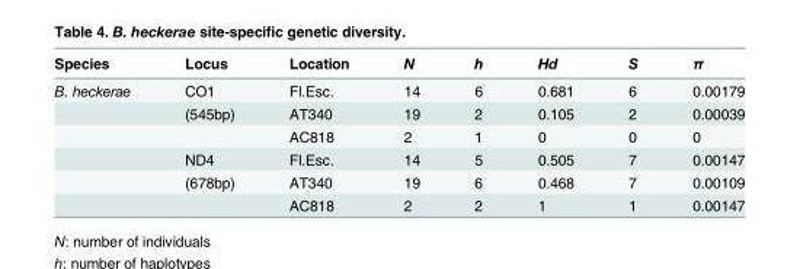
<table><thead><tr><td>Species</td><td>Locus</td><td>Location</td><td>N</td><td>h</td><td>Hd</td><td>S</td><td>π</td></tr></thead><tbody><tr><td rowspan="6">B. heckerae</td><td>CO1</td><td>Fl.Esc.</td><td>14</td><td>6</td><td>0.681</td><td>6</td><td>0.00179</td></tr><tr><td>(545bp)</td><td>AT340</td><td>19</td><td>2</td><td>0.105</td><td>2</td><td>0.00039</td></tr><tr><td></td><td>AC818</td><td>2</td><td>1</td><td>0</td><td>0</td><td>0</td></tr><tr><td>ND4</td><td>Fl.Esc.</td><td>14</td><td>5</td><td>0.505</td><td>7</td><td>0.00147</td></tr><tr><td>(678bp)</td><td>AT340</td><td>19</td><td>6</td><td>0.468</td><td>7</td><td>0.00109</td></tr><tr><td></td><td>AC818</td><td>2</td><td>2</td><td>1</td><td>1</td><td>0.00147</td></tr></tbody></table>